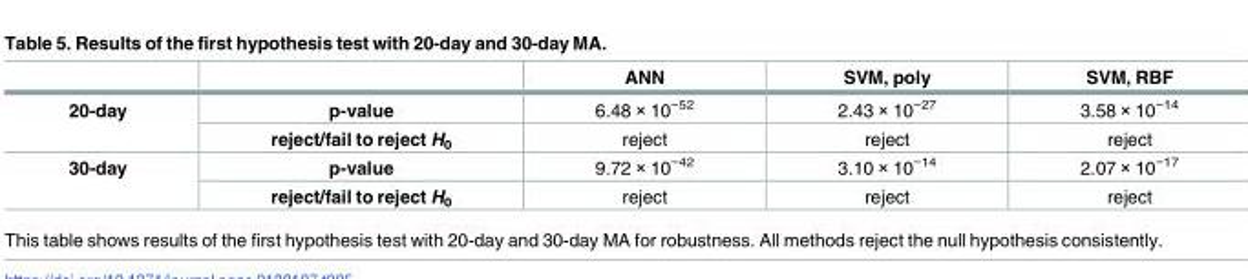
<table><thead><tr><td></td><td></td><td>ANN</td><td>SVM, poly</td><td>SVM, RBF</td></tr></thead><tbody><tr><td rowspan="2">20-day</td><td>p-value</td><td>6.48 × 10<sup>−52</sup></td><td>2.43 × 10<sup>−27</sup></td><td>3.58 × 10<sup>−14</sup></td></tr><tr><td>reject/fail to reject H<sub>0</sub></td><td>reject</td><td>reject</td><td>reject</td></tr><tr><td rowspan="2">30-day</td><td>p-value</td><td>9.72 × 10<sup>−42</sup></td><td>3.10 × 10<sup>−14</sup></td><td>2.07 × 10<sup>−17</sup></td></tr><tr><td>reject/fail to reject H<sub>0</sub></td><td>reject</td><td>reject</td><td>reject</td></tr></tbody></table>